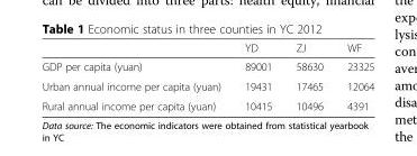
<table><thead><tr><td></td><td>YD</td><td>ZJ</td><td>WF</td></tr></thead><tbody><tr><td>GDP per capita (yuan)</td><td>89001</td><td>58630</td><td>23325</td></tr><tr><td>Urban annual income per capita (yuan)</td><td>19431</td><td>17465</td><td>12064</td></tr><tr><td>Rural annual income per capita (yuan)</td><td>10415</td><td>10496</td><td>4391</td></tr></tbody></table>